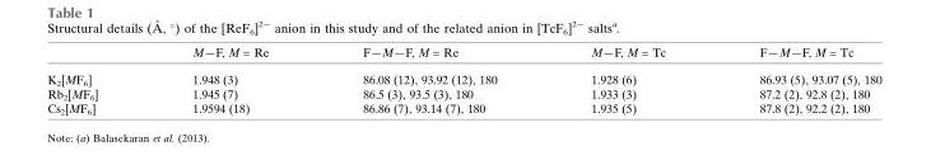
<table><thead><tr><td></td><td>M—F, M = Re</td><td>F—M—F, M = Re</td><td>M—F, M = Tc</td><td>F—M—F, M = Tc</td></tr></thead><tbody><tr><td>K<sub>2</sub>[MF<sub>6</sub>]</td><td>1.948 (3)</td><td>86.08 (12), 93.92 (12), 180</td><td>1.928 (6)</td><td>86.93 (5), 93.07 (5), 180</td></tr><tr><td>Rb<sub>2</sub>[MF<sub>6</sub>]</td><td>1.945 (7)</td><td>86.5 (3), 93.5 (3), 180</td><td>1.933 (3)</td><td>87.2 (2), 92.8 (2), 180</td></tr><tr><td>Cs<sub>2</sub>[MF<sub>6</sub>]</td><td>1.9594 (18)</td><td>86.86 (7), 93.14 (7), 180</td><td>1.935 (5)</td><td>87.8 (2), 92.2 (2), 180</td></tr></tbody></table>